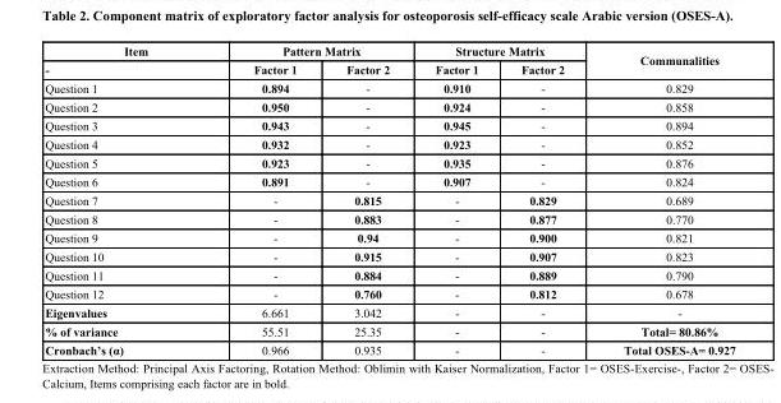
<table><thead><tr><td rowspan="2">Item -</td><td colspan="2">Pattern Matrix</td><td colspan="2">Structure Matrix</td><td rowspan="2">Communalities</td></tr><tr><td>Factor 1</td><td>Factor 2</td><td>Factor 1</td><td>Factor 2</td></tr></thead><tbody><tr><td>Question 1</td><td>0.894</td><td>-</td><td>0.910</td><td>-</td><td>0.829</td></tr><tr><td>Question 2</td><td>0.950</td><td>-</td><td>0.924</td><td>-</td><td>0.858</td></tr><tr><td>Question 3</td><td>0.943</td><td>-</td><td>0.945</td><td>-</td><td>0.894</td></tr><tr><td>Question 4</td><td>0.932</td><td>-</td><td>0.923</td><td>-</td><td>0.852</td></tr><tr><td>Question 5</td><td>0.923</td><td>-</td><td>0.935</td><td>-</td><td>0.876</td></tr><tr><td>Question 6</td><td>0.891</td><td>-</td><td>0.907</td><td>-</td><td>0.824</td></tr><tr><td>Question 7</td><td>-</td><td>0.815</td><td>-</td><td>0.829</td><td>0.689</td></tr><tr><td>Question 8</td><td>-</td><td>0.883</td><td>-</td><td>0.877</td><td>0.770</td></tr><tr><td>Question 9</td><td>-</td><td>0.94</td><td>-</td><td>0.900</td><td>0.821</td></tr><tr><td>Question 10</td><td>-</td><td>0.915</td><td>-</td><td>0.907</td><td>0.823</td></tr><tr><td>Question 11</td><td>-</td><td>0.884</td><td>-</td><td>0.889</td><td>0.790</td></tr><tr><td>Question 12</td><td>-</td><td>0.760</td><td>-</td><td>0.812</td><td>0.678</td></tr><tr><td>Eigenvalues</td><td>6.661</td><td>3.042</td><td>-</td><td>-</td><td>-</td></tr><tr><td>% of variance</td><td>55.51</td><td>25.35</td><td>-</td><td>-</td><td>Total= 80.86%</td></tr><tr><td>Cronbach’s (α)</td><td>0.966</td><td>0.935</td><td>-</td><td>-</td><td>Total OSES-A= 0.927</td></tr></tbody></table>